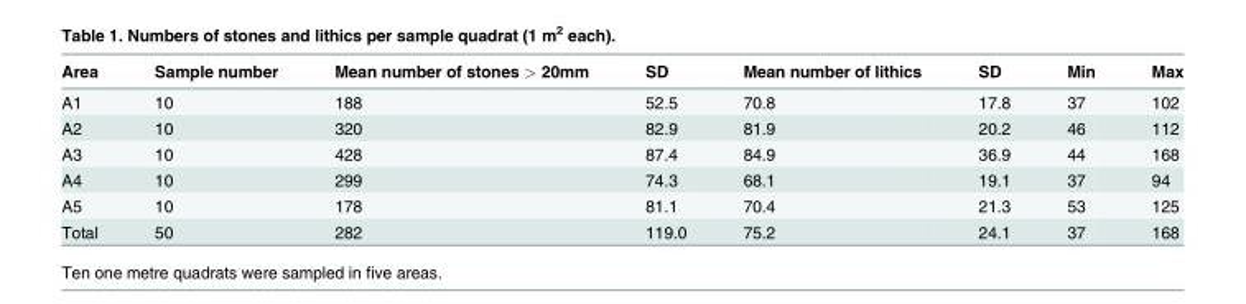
<table><thead><tr><td>Area</td><td>Sample number</td><td>Mean number of stones &gt; 20mm</td><td>SD</td><td>Mean number of lithics</td><td>SD</td><td>Min</td><td>Max</td></tr></thead><tbody><tr><td>A1</td><td>10</td><td>188</td><td>52.5</td><td>70.8</td><td>17.8</td><td>37</td><td>102</td></tr><tr><td>A2</td><td>10</td><td>320</td><td>82.9</td><td>81.9</td><td>20.2</td><td>46</td><td>112</td></tr><tr><td>A3</td><td>10</td><td>428</td><td>87.4</td><td>84.9</td><td>36.9</td><td>44</td><td>168</td></tr><tr><td>A4</td><td>10</td><td>299</td><td>74.3</td><td>68.1</td><td>19.1</td><td>37</td><td>94</td></tr><tr><td>A5</td><td>10</td><td>178</td><td>81.1</td><td>70.4</td><td>21.3</td><td>53</td><td>125</td></tr><tr><td>Total</td><td>50</td><td>282</td><td>119.0</td><td>75.2</td><td>24.1</td><td>37</td><td>168</td></tr></tbody></table>